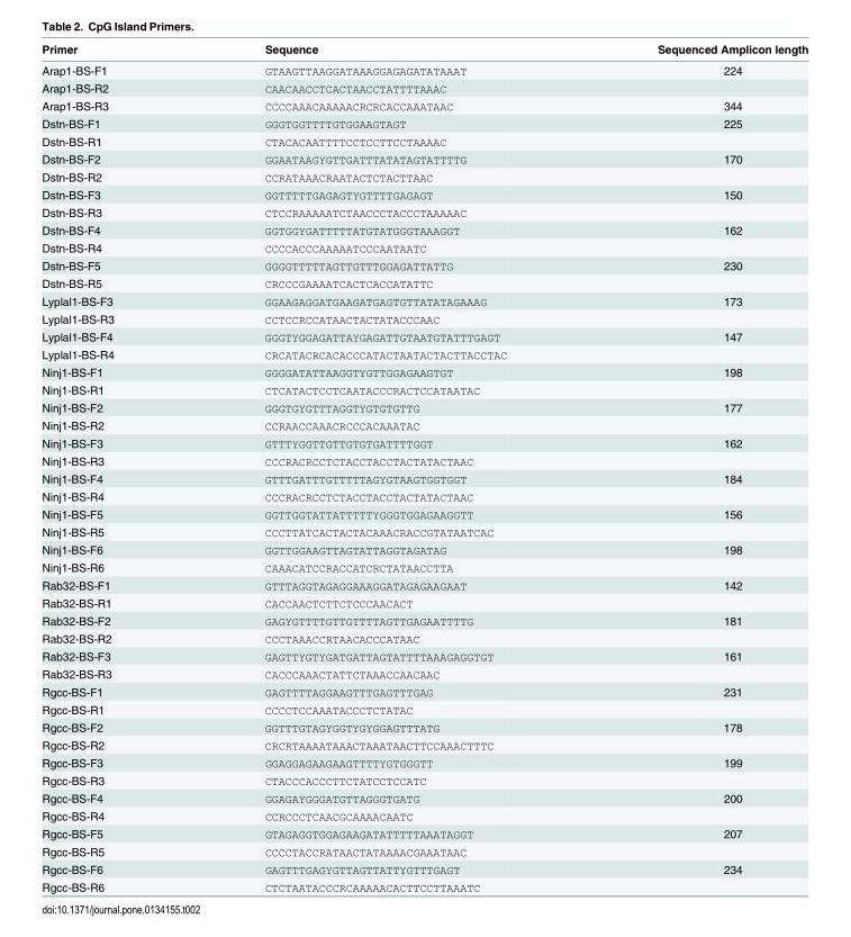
<table><thead><tr><td>Primer</td><td>Sequence</td><td>Sequenced Amplicon length</td></tr></thead><tbody><tr><td>Arap1-BS-F1</td><td>GTAAGTTAAGGATAAAGGAGAGATATAAAT</td><td>224</td></tr><tr><td>Arap1-BS-R2</td><td>CAACAACCTCACTAACCTATTTTAAAC</td><td></td></tr><tr><td>Arap1-BS-R3</td><td>CCCCAAACAAAAACRCRCACCAAATAAC</td><td>344</td></tr><tr><td>Dstn-BS-F1</td><td>GGGTGGTTTTGTGGAAGTAGT</td><td>225</td></tr><tr><td>Dstn-BS-R1</td><td>CTACACAATTTTCCTCCTTCCTAAAAC</td><td></td></tr><tr><td>Dstn-BS-F2</td><td>GGAATAAGYGTTGATTTATATAGTATTTTG</td><td>170</td></tr><tr><td>Dstn-BS-R2</td><td>CCRATAAACRAATACTCTACTTAAC</td><td></td></tr><tr><td>Dstn-BS-F3</td><td>GGTTTTTGAGAGTYGTTTTGAGAGT</td><td>150</td></tr><tr><td>Dstn-BS-R3</td><td>CTCCRAAAAATCTAACCCTACCCTAAAAAC</td><td></td></tr><tr><td>Dstn-BS-F4</td><td>GGTGGYGATTTTTATGTATGGGTAAAGGT</td><td>162</td></tr><tr><td>Dstn-BS-R4</td><td>CCCCACCCAAAAATCCCAATAATC</td><td></td></tr><tr><td>Dstn-BS-F5</td><td>GGGGTTTTTAGTTGTTTGGAGATTATTG</td><td>230</td></tr><tr><td>Dstn-BS-R5</td><td>CRCCCGAAAATCACTCACCATATTC</td><td></td></tr><tr><td>Lyplal1-BS-F3</td><td>GGAAGAGGATGAAGATGAGTGTTATATAGAAAG</td><td>173</td></tr><tr><td>Lyplal1-BS-R3</td><td>CCTCCRCCATAACTACTATACCCAAC</td><td></td></tr><tr><td>Lyplal1-BS-F4</td><td>GGGTYGGAGATTAYGAGATTGTAATGTATTTGAGT</td><td>147</td></tr><tr><td>Lyplal1-BS-R4</td><td>CRCATACRCACACCCATACTAATACTACTTACCTAC</td><td></td></tr><tr><td>Ninj1-BS-F1</td><td>GGGGATATTAAGGTYGTTGGAGAAGTGT</td><td>198</td></tr><tr><td>Ninj1-BS-R1</td><td>CTCATACTCCTCAATACCCRACTCCATAATAC</td><td></td></tr><tr><td>Ninj1-BS-F2</td><td>GGGTGYGTTTAGGTYGTGTGTTG</td><td>177</td></tr><tr><td>Ninj1-BS-R2</td><td>CCRAACCAAACRCCCACAAATAC</td><td></td></tr><tr><td>Ninj1-BS-F3</td><td>GTTTYGGTTGTTGTGTGATTTTGGT</td><td>162</td></tr><tr><td>Ninj1-BS-R3</td><td>CCCRACRCCTCTACCTACCTACTATACTAAC</td><td></td></tr><tr><td>Ninj1-BS-F4</td><td>GTTTGATTTGTTTTTAGYGTAAGTGGTGGT</td><td>184</td></tr><tr><td>Ninj1-BS-R4</td><td>CCCRACRCCTCTACCTACCTACTATACTAAC</td><td></td></tr><tr><td>Ninj1-BS-F5</td><td>GGTTGGTATTATTTTTYGGGTGGAGAAGGTT</td><td>156</td></tr><tr><td>Ninj1-BS-R5</td><td>CCCTTATCACTACTACAAACRACCGTATAATCAC</td><td></td></tr><tr><td>Ninj1-BS-F6</td><td>GGTTGGAAGTTAGTATTAGGTAGATAG</td><td>198</td></tr><tr><td>Ninj1-BS-R6</td><td>CAAACATCCRACCATCRCTATAACCTTA</td><td></td></tr><tr><td>Rab32-BS-F1</td><td>GTTTAGGTAGAGGAAAGGATAGAGAAGAAT</td><td>142</td></tr><tr><td>Rab32-BS-R1</td><td>CACCAACTCTTCTCCCAACACT</td><td></td></tr><tr><td>Rab32-BS-F2</td><td>GAGYGTTTTGTTGTTTTAGTTGAGAATTTTG</td><td>181</td></tr><tr><td>Rab32-BS-R2</td><td>CCCTAAACCRTAACACCCATAAC</td><td></td></tr><tr><td>Rab32-BS-F3</td><td>GAGTTYGTYGATGATTAGTATTTTAAAGAGGTGT</td><td>161</td></tr><tr><td>Rab32-BS-R3</td><td>CACCCAAACTATTCTAAACCAACAAC</td><td></td></tr><tr><td>Rgcc-BS-F1</td><td>GAGTTTTAGGAAGTTTGAGTTTGAG</td><td>231</td></tr><tr><td>Rgcc-BS-R1</td><td>CCCCTCCAAATACCCTCTATAC</td><td></td></tr><tr><td>Rgcc-BS-F2</td><td>GGTTTGTAGYGGTYGYGGAGTTTATG</td><td>178</td></tr><tr><td>Rgcc-BS-R2</td><td>CRCRTAAAATAAACTAAATAACTTCCAAACTTTC</td><td></td></tr><tr><td>Rgcc-BS-F3</td><td>GGAGGAGAAGAAGTTTTYGTGGGTT</td><td>199</td></tr><tr><td>Rgcc-BS-R3</td><td>CTACCCACCCTTCTATCCTCCATC</td><td></td></tr><tr><td>Rgcc-BS-F4</td><td>GGAGAYGGGATGTTAGGGTGATG</td><td>200</td></tr><tr><td>Rgcc-BS-R4</td><td>CCRCCCTCAACGCAAAACAATC</td><td></td></tr><tr><td>Rgcc-BS-F5</td><td>GTAGAGGTGGAGAAGATATTTTTAAATAGGT</td><td>207</td></tr><tr><td>Rgcc-BS-R5</td><td>CCCCTACCRATAACTATAAAACGAAATAAC</td><td></td></tr><tr><td>Rgcc-BS-F6</td><td>GAGTTTGAGYGTTAGTTATTYGTTTGAGT</td><td>234</td></tr><tr><td>Rgcc-BS-R6</td><td>CTCTAATACCCRCAAAAACACTTCCTTAAATC</td><td></td></tr></tbody></table>